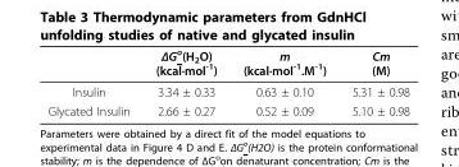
<table><thead><tr><td></td><td>ΔG<sup>o</sup>(H<sub>2</sub>O) (kcal·mol<sup>-1</sup>)</td><td>m (kcal·mol<sup>-1</sup>.M<sup>-1</sup>)</td><td>Cm (M)</td></tr></thead><tbody><tr><td>Insulin</td><td>3.34 ± 0.33</td><td>0.63 ± 0.10</td><td>5.31 ± 0.98</td></tr><tr><td>Glycated Insulin</td><td>2.66 ± 0.27</td><td>0.52 ± 0.09</td><td>5.10 ± 0.98</td></tr></tbody></table>